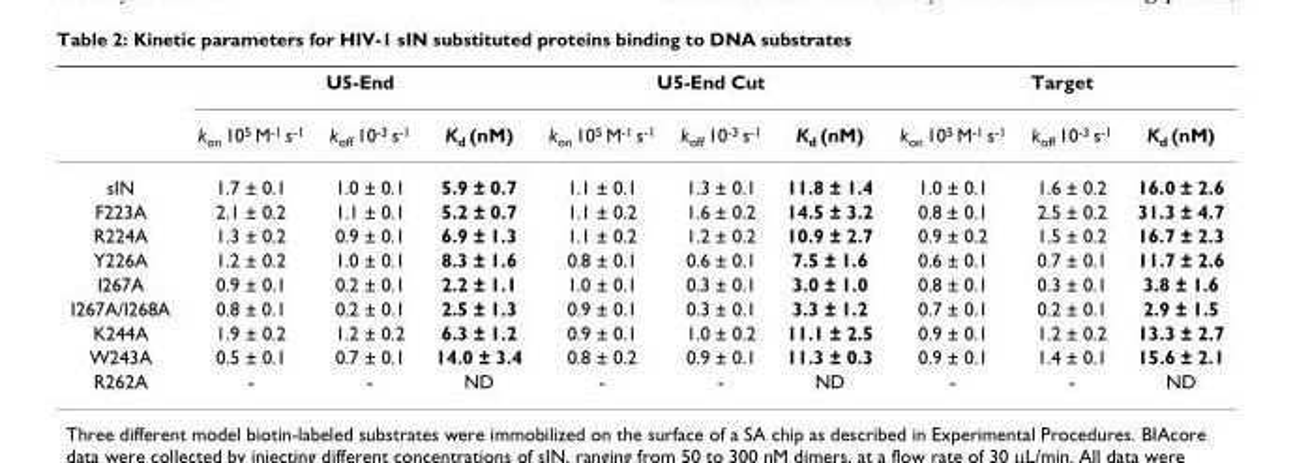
<table><thead><tr><td rowspan="2"></td><td colspan="3">U5-End</td><td colspan="3">U5-End Cut</td><td colspan="3">Target</td></tr><tr><td>k<sub>on</sub> 10<sup>5</sup> M<sup>-1</sup> s<sup>-1</sup></td><td>k<sub>off</sub> 10<sup>-3</sup> s<sup>-1</sup></td><td>K<sub>d</sub> (nM)</td><td>k<sub>on</sub> 10<sup>5</sup> M<sup>-1</sup> s<sup>-1</sup></td><td>k<sub>off</sub> 10<sup>-3</sup> s<sup>-1</sup></td><td>K<sub>d</sub> (nM)</td><td>k<sub>on</sub> 10<sup>5</sup> M<sup>-1</sup> s<sup>-1</sup></td><td>k<sub>off</sub> 10<sup>-3</sup> s<sup>-1</sup></td><td>K<sub>d</sub> (nM)</td></tr></thead><tbody><tr><td>sIN</td><td>1.7 ± 0.1</td><td>1.0 ± 0.1</td><td>5.9 ± 0.7</td><td>1.1 ± 0.1</td><td>1.3 ± 0.1</td><td>11.8 ± 1.4</td><td>1.0 ± 0.1</td><td>1.6 ± 0.2</td><td>16.0 ± 2.6</td></tr><tr><td>F223A</td><td>2.1 ± 0.2</td><td>1.1 ± 0.1</td><td>5.2 ± 0.7</td><td>1.1 ± 0.2</td><td>1.6 ± 0.2</td><td>14.5 ± 3.2</td><td>0.8 ± 0.1</td><td>2.5 ± 0.2</td><td>31.3 ± 4.7</td></tr><tr><td>R224A</td><td>1.3 ± 0.2</td><td>0.9 ± 0.1</td><td>6.9 ± 1.3</td><td>1.1 ± 0.2</td><td>1.2 ± 0.2</td><td>10.9 ± 2.7</td><td>0.9 ± 0.2</td><td>1.5 ± 0.2</td><td>16.7 ± 2.3</td></tr><tr><td>Y226A</td><td>1.2 ± 0.2</td><td>1.0 ± 0.1</td><td>8.3 ± 1.6</td><td>0.8 ± 0.1</td><td>0.6 ± 0.1</td><td>7.5 ± 1.6</td><td>0.6 ± 0.1</td><td>0.7 ± 0.1</td><td>11.7 ± 2.6</td></tr><tr><td>I267A</td><td>0.9 ± 0.1</td><td>0.2 ± 0.1</td><td>2.2 ± 1.1</td><td>1.0 ± 0.1</td><td>0.3 ± 0.1</td><td>3.0 ± 1.0</td><td>0.8 ± 0.1</td><td>0.3 ± 0.1</td><td>3.8 ± 1.6</td></tr><tr><td>I267A/I268A</td><td>0.8 ± 0.1</td><td>0.2 ± 0.1</td><td>2.5 ± 1.3</td><td>0.9 ± 0.1</td><td>0.3 ± 0.1</td><td>3.3 ± 1.2</td><td>0.7 ± 0.1</td><td>0.2 ± 0.1</td><td>2.9 ± 1.5</td></tr><tr><td>K244A</td><td>1.9 ± 0.2</td><td>1.2 ± 0.2</td><td>6.3 ± 1.2</td><td>0.9 ± 0.1</td><td>1.0 ± 0.2</td><td>11.1 ± 2.5</td><td>0.9 ± 0.1</td><td>1.2 ± 0.2</td><td>13.3 ± 2.7</td></tr><tr><td>W243A</td><td>0.5 ± 0.1</td><td>0.7 ± 0.1</td><td>14.0 ± 3.4</td><td>0.8 ± 0.2</td><td>0.9 ± 0.1</td><td>11.3 ± 0.3</td><td>0.9 ± 0.1</td><td>1.4 ± 0.1</td><td>15.6 ± 2.1</td></tr><tr><td>R262A</td><td>-</td><td>-</td><td>ND</td><td>-</td><td>-</td><td>ND</td><td>-</td><td>-</td><td>ND</td></tr></tbody></table>